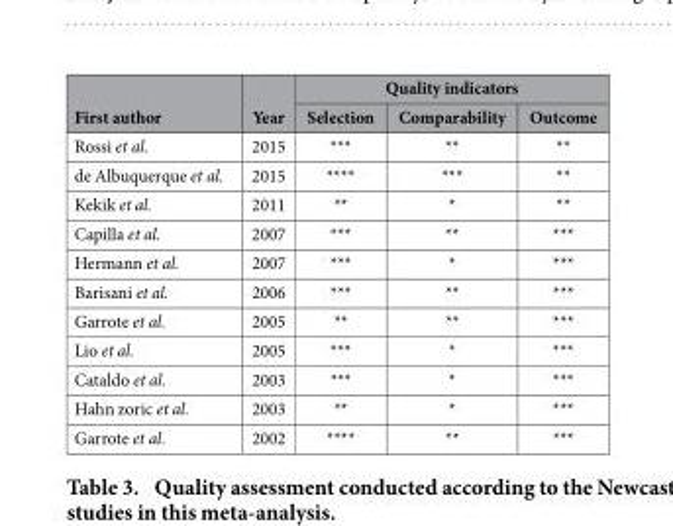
<table><thead><tr><td rowspan="2">First author</td><td rowspan="2">Year</td><td colspan="3">Quality indicators</td></tr><tr><td>Selection</td><td>Comparability</td><td>Outcome</td></tr></thead><tbody><tr><td>Rossi et al.</td><td>2015</td><td>***</td><td>**</td><td>**</td></tr><tr><td>de Albuquerque et al.</td><td>2015</td><td>****</td><td>***</td><td>**</td></tr><tr><td>Kekik et al.</td><td>2011</td><td>**</td><td>*</td><td>**</td></tr><tr><td>Capilla et al.</td><td>2007</td><td>***</td><td>**</td><td>***</td></tr><tr><td>Hermann et al.</td><td>2007</td><td>***</td><td>*</td><td>***</td></tr><tr><td>Barisani et al.</td><td>2006</td><td>***</td><td>**</td><td>***</td></tr><tr><td>Garrote et al.</td><td>2005</td><td>**</td><td>**</td><td>***</td></tr><tr><td>Lio et al.</td><td>2005</td><td>***</td><td>*</td><td>***</td></tr><tr><td>Cataldo et al.</td><td>2003</td><td>***</td><td>*</td><td>***</td></tr><tr><td>Hahn zoric et al.</td><td>2003</td><td>**</td><td>*</td><td>***</td></tr><tr><td>Garrote et al.</td><td>2002</td><td>****</td><td>**</td><td>***</td></tr></tbody></table>